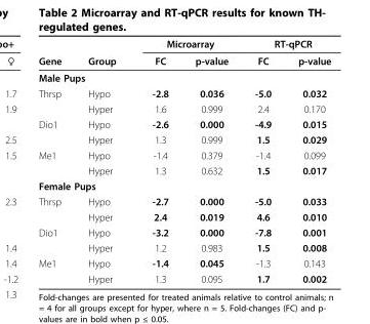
<table><thead><tr><td rowspan="2">Gene</td><td rowspan="2">Group</td><td colspan="2">Microarray</td><td colspan="2">RT-qPCR</td></tr><tr><td>FC</td><td>p-value</td><td>FC</td><td>p-value</td></tr></thead><tbody><tr><td colspan="6">Male Pups</td></tr><tr><td rowspan="2">Thrsp</td><td>Hypo</td><td>-2.8</td><td>0.036</td><td>-5.0</td><td>0.032</td></tr><tr><td>Hyper</td><td>1.6</td><td>0.999</td><td>2.4</td><td>0.170</td></tr><tr><td rowspan="2">Dio1</td><td>Hypo</td><td>-2.6</td><td>0.000</td><td>-4.9</td><td>0.015</td></tr><tr><td>Hyper</td><td>1.3</td><td>0.999</td><td>1.5</td><td>0.029</td></tr><tr><td rowspan="2">Me1</td><td>Hypo</td><td>-1.4</td><td>0.379</td><td>-1.4</td><td>0.099</td></tr><tr><td>Hyper</td><td>1.3</td><td>0.632</td><td>1.5</td><td>0.017</td></tr><tr><td colspan="6">Female Pups</td></tr><tr><td rowspan="2">Thrsp</td><td>Hypo</td><td>-2.7</td><td>0.000</td><td>-5.0</td><td>0.033</td></tr><tr><td>Hyper</td><td>2.4</td><td>0.019</td><td>4.6</td><td>0.010</td></tr><tr><td rowspan="2">Dio1</td><td>Hypo</td><td>-3.2</td><td>0.000</td><td>-7.8</td><td>0.001</td></tr><tr><td>Hyper</td><td>1.2</td><td>0.983</td><td>1.5</td><td>0.008</td></tr><tr><td rowspan="2">Me1</td><td>Hypo</td><td>-1.4</td><td>0.045</td><td>-1.3</td><td>0.143</td></tr><tr><td>Hyper</td><td>1.3</td><td>0.095</td><td>1.7</td><td>0.002</td></tr></tbody></table>